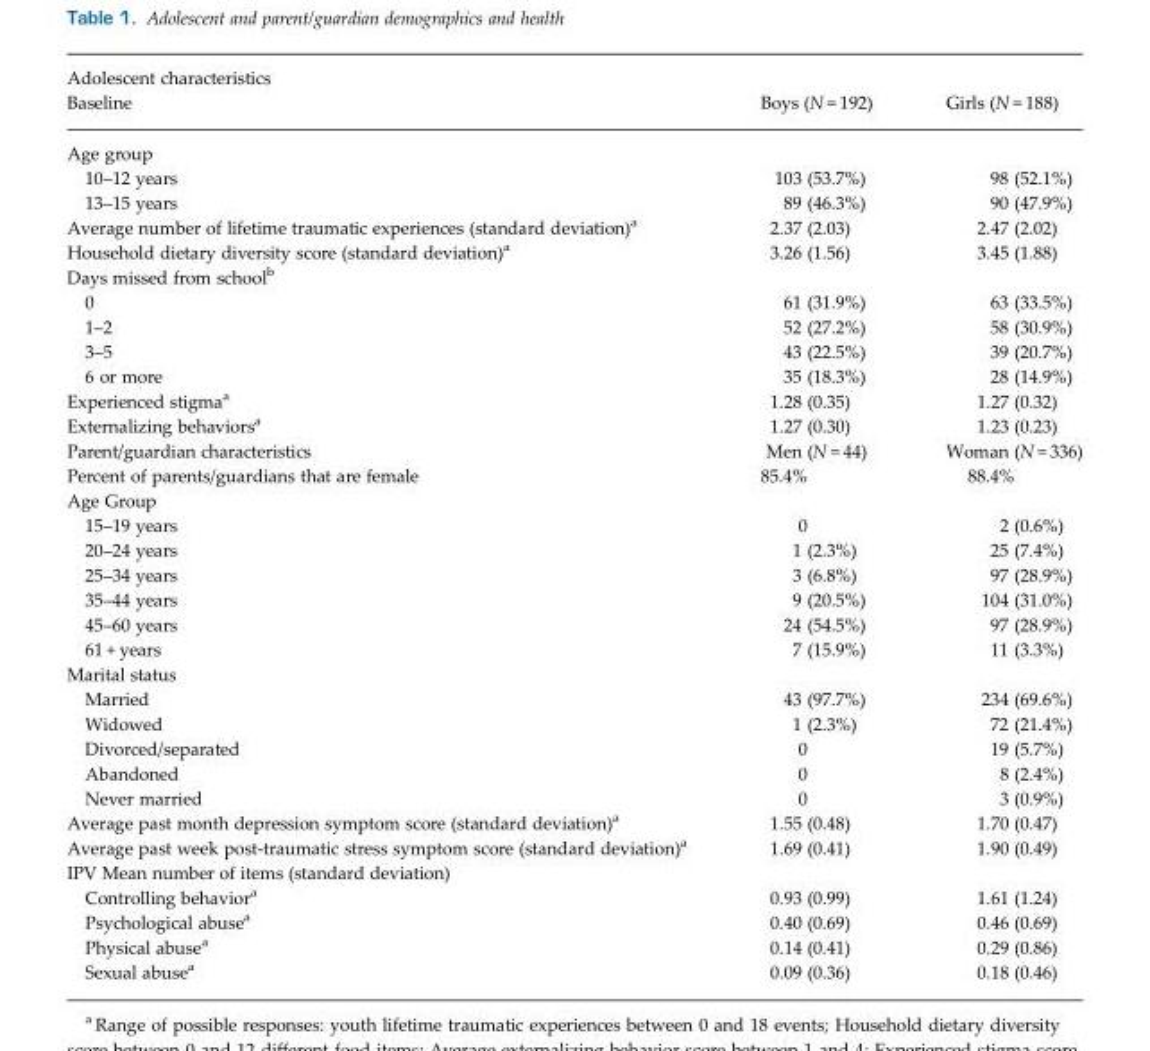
<table><thead><tr><td colspan="3">Adolescent characteristics</td></tr><tr><td>Baseline</td><td>Boys (N = 192)</td><td>Girls (N = 188)</td></tr></thead><tbody><tr><td colspan="3">Age group</td></tr><tr><td>10–12 years</td><td>103 (53.7%)</td><td>98 (52.1%)</td></tr><tr><td>13–15 years</td><td>89 (46.3%)</td><td>90 (47.9%)</td></tr><tr><td>Average number of lifetime traumatic experiences (standard deviation)<sup>a</sup></td><td>2.37 (2.03)</td><td>2.47 (2.02)</td></tr><tr><td>Household dietary diversity score (standard deviation)<sup>a</sup></td><td>3.26 (1.56)</td><td>3.45 (1.88)</td></tr><tr><td colspan="3">Days missed from school<sup>b</sup></td></tr><tr><td>0</td><td>61 (31.9%)</td><td>63 (33.5%)</td></tr><tr><td>1–2</td><td>52 (27.2%)</td><td>58 (30.9%)</td></tr><tr><td>3–5</td><td>43 (22.5%)</td><td>39 (20.7%)</td></tr><tr><td>6 or more</td><td>35 (18.3%)</td><td>28 (14.9%)</td></tr><tr><td>Experienced stigma<sup>a</sup></td><td>1.28 (0.35)</td><td>1.27 (0.32)</td></tr><tr><td>Externalizing behaviors<sup>a</sup></td><td>1.27 (0.30)</td><td>1.23 (0.23)</td></tr><tr><td>Parent/guardian characteristics</td><td>Men (N = 44)</td><td>Woman (N = 336)</td></tr><tr><td>Percent of parents/guardians that are female</td><td>85.4%</td><td>88.4%</td></tr><tr><td colspan="3">Age Group</td></tr><tr><td>15–19 years</td><td>0</td><td>2 (0.6%)</td></tr><tr><td>20–24 years</td><td>1 (2.3%)</td><td>25 (7.4%)</td></tr><tr><td>25–34 years</td><td>3 (6.8%)</td><td>97 (28.9%)</td></tr><tr><td>35–44 years</td><td>9 (20.5%)</td><td>104 (31.0%)</td></tr><tr><td>45–60 years</td><td>24 (54.5%)</td><td>97 (28.9%)</td></tr><tr><td>61 + years</td><td>7 (15.9%)</td><td>11 (3.3%)</td></tr><tr><td colspan="3">Marital status</td></tr><tr><td>Married</td><td>43 (97.7%)</td><td>234 (69.6%)</td></tr><tr><td>Widowed</td><td>1 (2.3%)</td><td>72 (21.4%)</td></tr><tr><td>Divorced/separated</td><td>0</td><td>19 (5.7%)</td></tr><tr><td>Abandoned</td><td>0</td><td>8 (2.4%)</td></tr><tr><td>Never married</td><td>0</td><td>3 (0.9%)</td></tr><tr><td>Average past month depression symptom score (standard deviation)<sup>a</sup></td><td>1.55 (0.48)</td><td>1.70 (0.47)</td></tr><tr><td>Average past week post-traumatic stress symptom score (standard deviation)<sup>a</sup></td><td>1.69 (0.41)</td><td>1.90 (0.49)</td></tr><tr><td colspan="3">IPV Mean number of items (standard deviation)</td></tr><tr><td>Controlling behavior<sup>a</sup></td><td>0.93 (0.99)</td><td>1.61 (1.24)</td></tr><tr><td>Psychological abuse<sup>a</sup></td><td>0.40 (0.69)</td><td>0.46 (0.69)</td></tr><tr><td>Physical abuse<sup>a</sup></td><td>0.14 (0.41)</td><td>0.29 (0.86)</td></tr><tr><td>Sexual abuse<sup>a</sup></td><td>0.09 (0.36)</td><td>0.18 (0.46)</td></tr></tbody></table>